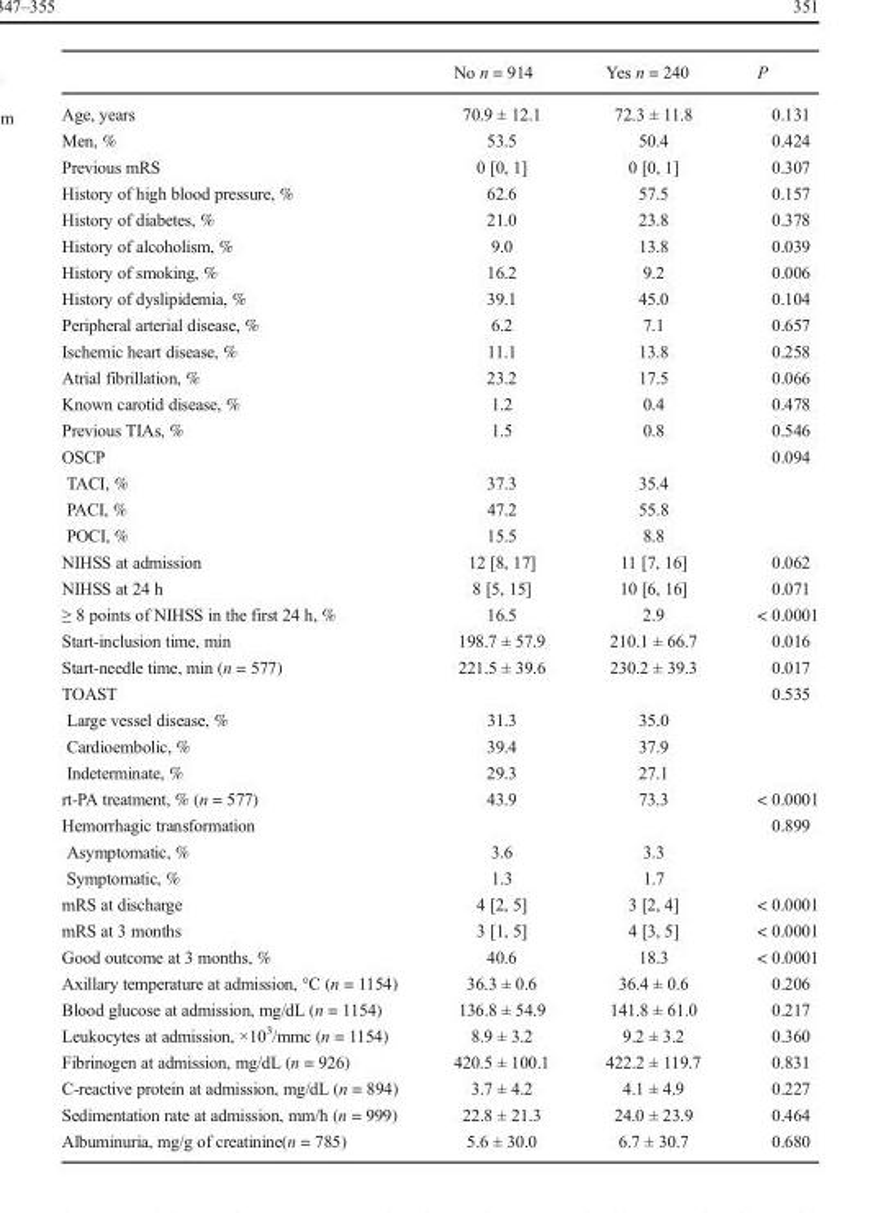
<table><thead><tr><td></td><td>No n = 914</td><td>Yes n = 240</td><td>P</td></tr></thead><tbody><tr><td>Age, years</td><td>70.9 ± 12.1</td><td>72.3 ± 11.8</td><td>0.131</td></tr><tr><td>Men, %</td><td>53.5</td><td>50.4</td><td>0.424</td></tr><tr><td>Previous mRS</td><td>0 [0, 1]</td><td>0 [0, 1]</td><td>0.307</td></tr><tr><td>History of high blood pressure, %</td><td>62.6</td><td>57.5</td><td>0.157</td></tr><tr><td>History of diabetes, %</td><td>21.0</td><td>23.8</td><td>0.378</td></tr><tr><td>History of alcoholism, %</td><td>9.0</td><td>13.8</td><td>0.039</td></tr><tr><td>History of smoking, %</td><td>16.2</td><td>9.2</td><td>0.006</td></tr><tr><td>History of dyslipidemia, %</td><td>39.1</td><td>45.0</td><td>0.104</td></tr><tr><td>Peripheral arterial disease, %</td><td>6.2</td><td>7.1</td><td>0.657</td></tr><tr><td>Ischemic heart disease, %</td><td>11.1</td><td>13.8</td><td>0.258</td></tr><tr><td>Atrial fibrillation, %</td><td>23.2</td><td>17.5</td><td>0.066</td></tr><tr><td>Known carotid disease, %</td><td>1.2</td><td>0.4</td><td>0.478</td></tr><tr><td>Previous TIAs, %</td><td>1.5</td><td>0.8</td><td>0.546</td></tr><tr><td>OSCP</td><td></td><td></td><td>0.094</td></tr><tr><td>TACI, %</td><td>37.3</td><td>35.4</td><td></td></tr><tr><td>PACI, %</td><td>47.2</td><td>55.8</td><td></td></tr><tr><td>POCI, %</td><td>15.5</td><td>8.8</td><td></td></tr><tr><td>NIHSS at admission</td><td>12 [8, 17]</td><td>11 [7, 16]</td><td>0.062</td></tr><tr><td>NIHSS at 24 h</td><td>8 [5, 15]</td><td>10 [6, 16]</td><td>0.071</td></tr><tr><td>≥ 8 points of NIHSS in the first 24 h, %</td><td>16.5</td><td>2.9</td><td>&lt; 0.0001</td></tr><tr><td>Start-inclusion time, min</td><td>198.7 ± 57.9</td><td>210.1 ± 66.7</td><td>0.016</td></tr><tr><td>Start-needle time, min (n = 577)</td><td>221.5 ± 39.6</td><td>230.2 ± 39.3</td><td>0.017</td></tr><tr><td>TOAST</td><td></td><td></td><td>0.535</td></tr><tr><td>Large vessel disease, %</td><td>31.3</td><td>35.0</td><td></td></tr><tr><td>Cardioembolic, %</td><td>39.4</td><td>37.9</td><td></td></tr><tr><td>Indeterminate, %</td><td>29.3</td><td>27.1</td><td></td></tr><tr><td>rt-PA treatment, % (n = 577)</td><td>43.9</td><td>73.3</td><td>&lt; 0.0001</td></tr><tr><td>Hemorrhagic transformation</td><td></td><td></td><td>0.899</td></tr><tr><td>Asymptomatic, %</td><td>3.6</td><td>3.3</td><td></td></tr><tr><td>Symptomatic, %</td><td>1.3</td><td>1.7</td><td></td></tr><tr><td>mRS at discharge</td><td>4 [2, 5]</td><td>3 [2, 4]</td><td>&lt; 0.0001</td></tr><tr><td>mRS at 3 months</td><td>3 [1, 5]</td><td>4 [3, 5]</td><td>&lt; 0.0001</td></tr><tr><td>Good outcome at 3 months, %</td><td>40.6</td><td>18.3</td><td>&lt; 0.0001</td></tr><tr><td>Axillary temperature at admission, °C (n = 1154)</td><td>36.3 ± 0.6</td><td>36.4 ± 0.6</td><td>0.206</td></tr><tr><td>Blood glucose at admission, mg/dL (n = 1154)</td><td>136.8 ± 54.9</td><td>141.8 ± 61.0</td><td>0.217</td></tr><tr><td>Leukocytes at admission, ×10<sup>3</sup>/mmc (n = 1154)</td><td>8.9 ± 3.2</td><td>9.2 ± 3.2</td><td>0.360</td></tr><tr><td>Fibrinogen at admission, mg/dL (n = 926)</td><td>420.5 ± 100.1</td><td>422.2 ± 119.7</td><td>0.831</td></tr><tr><td>C-reactive protein at admission, mg/dL (n = 894)</td><td>3.7 ± 4.2</td><td>4.1 ± 4.9</td><td>0.227</td></tr><tr><td>Sedimentation rate at admission, mm/h (n = 999)</td><td>22.8 ± 21.3</td><td>24.0 ± 23.9</td><td>0.464</td></tr><tr><td>Albuminuria, mg/g of creatinine(n = 785)</td><td>5.6 ± 30.0</td><td>6.7 ± 30.7</td><td>0.680</td></tr></tbody></table>